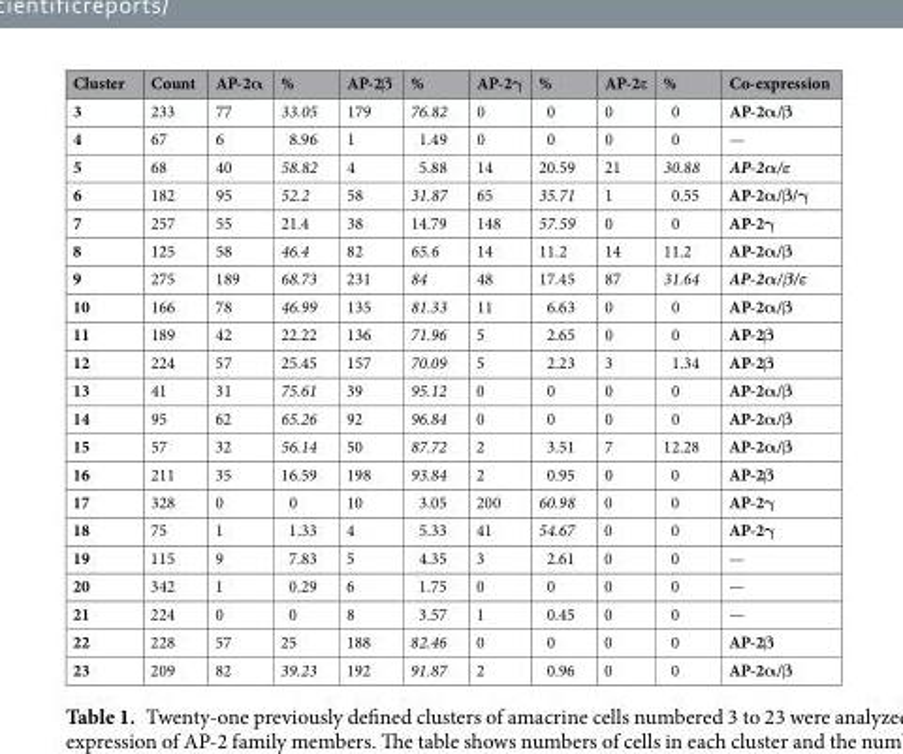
<table><thead><tr><td>Cluster</td><td>Count</td><td>AP-2α</td><td>%</td><td>AP-2β</td><td>%</td><td>AP-2γ</td><td>%</td><td>AP-2ε</td><td>%</td><td>Co-expression</td></tr></thead><tbody><tr><td>3</td><td>233</td><td>77</td><td>33.05</td><td>179</td><td>76.82</td><td>0</td><td>0</td><td>0</td><td>0</td><td>AP-2α/β</td></tr><tr><td>4</td><td>67</td><td>6</td><td>8.96</td><td>1</td><td>1.49</td><td>0</td><td>0</td><td>0</td><td>0</td><td>—</td></tr><tr><td>5</td><td>68</td><td>40</td><td>58.82</td><td>4</td><td>5.88</td><td>14</td><td>20.59</td><td>21</td><td>30.88</td><td>AP-2α/ε</td></tr><tr><td>6</td><td>182</td><td>95</td><td>52.2</td><td>58</td><td>31.87</td><td>65</td><td>35.71</td><td>1</td><td>0.55</td><td>AP-2α/β/γ</td></tr><tr><td>7</td><td>257</td><td>55</td><td>21.4</td><td>38</td><td>14.79</td><td>148</td><td>57.59</td><td>0</td><td>0</td><td>AP-2γ</td></tr><tr><td>8</td><td>125</td><td>58</td><td>46.4</td><td>82</td><td>65.6</td><td>14</td><td>11.2</td><td>14</td><td>11.2</td><td>AP-2α/β</td></tr><tr><td>9</td><td>275</td><td>189</td><td>68.73</td><td>231</td><td>84</td><td>48</td><td>17.45</td><td>87</td><td>31.64</td><td>AP-2α/β/ε</td></tr><tr><td>10</td><td>166</td><td>78</td><td>46.99</td><td>135</td><td>81.33</td><td>11</td><td>6.63</td><td>0</td><td>0</td><td>AP-2α/β</td></tr><tr><td>11</td><td>189</td><td>42</td><td>22.22</td><td>136</td><td>71.96</td><td>5</td><td>2.65</td><td>0</td><td>0</td><td>AP-2β</td></tr><tr><td>12</td><td>224</td><td>57</td><td>25.45</td><td>157</td><td>70.09</td><td>5</td><td>2.23</td><td>3</td><td>1.34</td><td>AP-2β</td></tr><tr><td>13</td><td>41</td><td>31</td><td>75.61</td><td>39</td><td>95.12</td><td>0</td><td>0</td><td>0</td><td>0</td><td>AP-2α/β</td></tr><tr><td>14</td><td>95</td><td>62</td><td>65.26</td><td>92</td><td>96.84</td><td>0</td><td>0</td><td>0</td><td>0</td><td>AP-2α/β</td></tr><tr><td>15</td><td>57</td><td>32</td><td>56.14</td><td>50</td><td>87.72</td><td>2</td><td>3.51</td><td>7</td><td>12.28</td><td>AP-2α/β</td></tr><tr><td>16</td><td>211</td><td>35</td><td>16.59</td><td>198</td><td>93.84</td><td>2</td><td>0.95</td><td>0</td><td>0</td><td>AP-2β</td></tr><tr><td>17</td><td>328</td><td>0</td><td>0</td><td>10</td><td>3.05</td><td>200</td><td>60.98</td><td>0</td><td>0</td><td>AP-2γ</td></tr><tr><td>18</td><td>75</td><td>1</td><td>1.33</td><td>4</td><td>5.33</td><td>41</td><td>54.67</td><td>0</td><td>0</td><td>AP-2γ</td></tr><tr><td>19</td><td>115</td><td>9</td><td>7.83</td><td>5</td><td>4.35</td><td>3</td><td>2.61</td><td>0</td><td>0</td><td>—</td></tr><tr><td>20</td><td>342</td><td>1</td><td>0.29</td><td>6</td><td>1.75</td><td>0</td><td>0</td><td>0</td><td>0</td><td>—</td></tr><tr><td>21</td><td>224</td><td>0</td><td>0</td><td>8</td><td>3.57</td><td>1</td><td>0.45</td><td>0</td><td>0</td><td>—</td></tr><tr><td>22</td><td>228</td><td>57</td><td>25</td><td>188</td><td>82.46</td><td>0</td><td>0</td><td>0</td><td>0</td><td>AP-2β</td></tr><tr><td>23</td><td>209</td><td>82</td><td>39.23</td><td>192</td><td>91.87</td><td>2</td><td>0.96</td><td>0</td><td>0</td><td>AP-2α/β</td></tr></tbody></table>